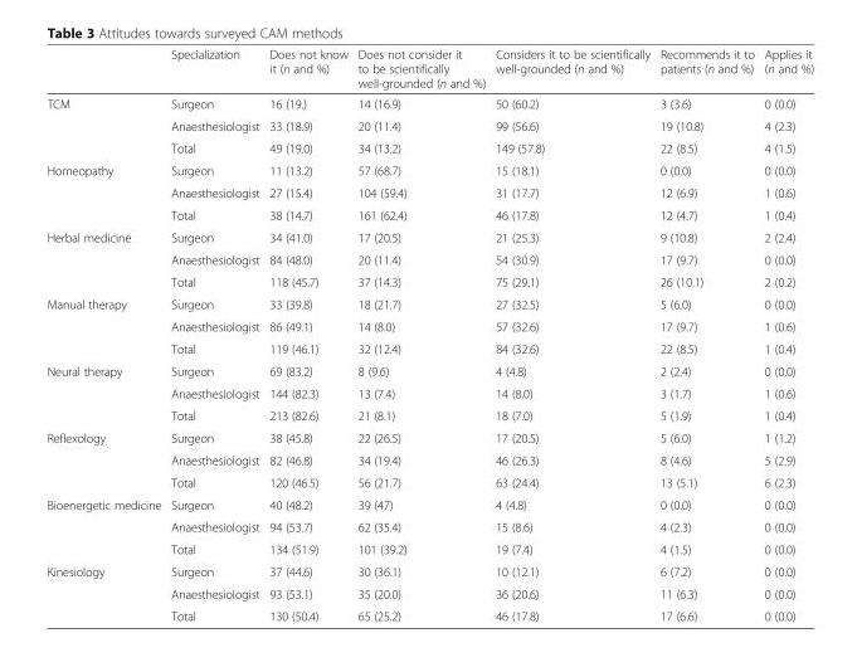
<table><thead><tr><td></td><td>Specialization</td><td>Does not know it (n and %)</td><td>Does not consider it to be scientifically well-grounded (n and %)</td><td>Considers it to be scientifically well-grounded (n and %)</td><td>Recommends it to patients (n and %)</td><td>Applies it (n and %)</td></tr></thead><tbody><tr><td rowspan="3">TCM</td><td>Surgeon</td><td>16 (19.)</td><td>14 (16.9)</td><td>50 (60.2)</td><td>3 (3.6)</td><td>0 (0.0)</td></tr><tr><td>Anaesthesiologist</td><td>33 (18.9)</td><td>20 (11.4)</td><td>99 (56.6)</td><td>19 (10.8)</td><td>4 (2.3)</td></tr><tr><td>Total</td><td>49 (19.0)</td><td>34 (13.2)</td><td>149 (57.8)</td><td>22 (8.5)</td><td>4 (1.5)</td></tr><tr><td rowspan="3">Homeopathy</td><td>Surgeon</td><td>11 (13.2)</td><td>57 (68.7)</td><td>15 (18.1)</td><td>0 (0.0)</td><td>0 (0.0)</td></tr><tr><td>Anaesthesiologist</td><td>27 (15.4)</td><td>104 (59.4)</td><td>31 (17.7)</td><td>12 (6.9)</td><td>1 (0.6)</td></tr><tr><td>Total</td><td>38 (14.7)</td><td>161 (62.4)</td><td>46 (17.8)</td><td>12 (4.7)</td><td>1 (0.4)</td></tr><tr><td rowspan="3">Herbal medicine</td><td>Surgeon</td><td>34 (41.0)</td><td>17 (20.5)</td><td>21 (25.3)</td><td>9 (10.8)</td><td>2 (2.4)</td></tr><tr><td>Anaesthesiologist</td><td>84 (48.0)</td><td>20 (11.4)</td><td>54 (30.9)</td><td>17 (9.7)</td><td>0 (0.0)</td></tr><tr><td>Total</td><td>118 (45.7)</td><td>37 (14.3)</td><td>75 (29.1)</td><td>26 (10.1)</td><td>2 (0.2)</td></tr><tr><td rowspan="3">Manual therapy</td><td>Surgeon</td><td>33 (39.8)</td><td>18 (21.7)</td><td>27 (32.5)</td><td>5 (6.0)</td><td>0 (0.0)</td></tr><tr><td>Anaesthesiologist</td><td>86 (49.1)</td><td>14 (8.0)</td><td>57 (32.6)</td><td>17 (9.7)</td><td>1 (0.6)</td></tr><tr><td>Total</td><td>119 (46.1)</td><td>32 (12.4)</td><td>84 (32.6)</td><td>22 (8.5)</td><td>1 (0.4)</td></tr><tr><td rowspan="3">Neural therapy</td><td>Surgeon</td><td>69 (83.2)</td><td>8 (9.6)</td><td>4 (4.8)</td><td>2 (2.4)</td><td>0 (0.0)</td></tr><tr><td>Anaesthesiologist</td><td>144 (82.3)</td><td>13 (7.4)</td><td>14 (8.0)</td><td>3 (1.7)</td><td>1 (0.6)</td></tr><tr><td>Total</td><td>213 (82.6)</td><td>21 (8.1)</td><td>18 (7.0)</td><td>5 (1.9)</td><td>1 (0.4)</td></tr><tr><td rowspan="3">Reflexology</td><td>Surgeon</td><td>38 (45.8)</td><td>22 (26.5)</td><td>17 (20.5)</td><td>5 (6.0)</td><td>1 (1.2)</td></tr><tr><td>Anaesthesiologist</td><td>82 (46.8)</td><td>34 (19.4)</td><td>46 (26.3)</td><td>8 (4.6)</td><td>5 (2.9)</td></tr><tr><td>Total</td><td>120 (46.5)</td><td>56 (21.7)</td><td>63 (24.4)</td><td>13 (5.1)</td><td>6 (2.3)</td></tr><tr><td rowspan="3">Bioenergetic medicine</td><td>Surgeon</td><td>40 (48.2)</td><td>39 (47)</td><td>4 (4.8)</td><td>0 (0.0)</td><td>0 (0.0)</td></tr><tr><td>Anaesthesiologist</td><td>94 (53.7)</td><td>62 (35.4)</td><td>15 (8.6)</td><td>4 (2.3)</td><td>0 (0.0)</td></tr><tr><td>Total</td><td>134 (51.9)</td><td>101 (39.2)</td><td>19 (7.4)</td><td>4 (1.5)</td><td>0 (0.0)</td></tr><tr><td rowspan="3">Kinesiology</td><td>Surgeon</td><td>37 (44.6)</td><td>30 (36.1)</td><td>10 (12.1)</td><td>6 (7.2)</td><td>0 (0.0)</td></tr><tr><td>Anaesthesiologist</td><td>93 (53.1)</td><td>35 (20.0)</td><td>36 (20.6)</td><td>11 (6.3)</td><td>0 (0.0)</td></tr><tr><td>Total</td><td>130 (50.4)</td><td>65 (25.2)</td><td>46 (17.8)</td><td>17 (6.6)</td><td>0 (0.0)</td></tr></tbody></table>